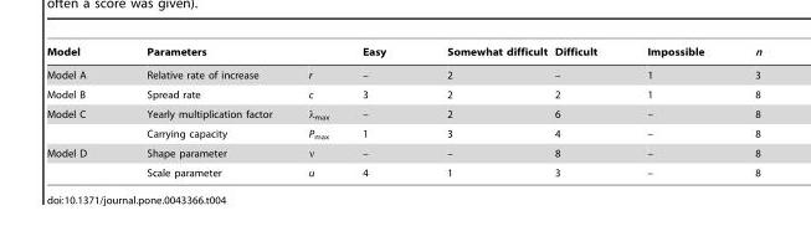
<table><thead><tr><td>Model</td><td>Parameters</td><td></td><td>Easy</td><td>Somewhat difficult</td><td>Difficult</td><td>Impossible</td><td>n</td></tr></thead><tbody><tr><td>Model A</td><td>Relative rate of increase</td><td>r</td><td>–</td><td>2</td><td>–</td><td>1</td><td>3</td></tr><tr><td>Model B</td><td>Spread rate</td><td>c</td><td>3</td><td>2</td><td>2</td><td>1</td><td>8</td></tr><tr><td rowspan="2">Model C</td><td>Yearly multiplication factor</td><td>λ<sub>max</sub></td><td>–</td><td>2</td><td>6</td><td>–</td><td>8</td></tr><tr><td>Carrying capacity</td><td>P<sub>max</sub></td><td>1</td><td>3</td><td>4</td><td>–</td><td>8</td></tr><tr><td rowspan="2">Model D</td><td>Shape parameter</td><td>ν</td><td>–</td><td>–</td><td>8</td><td>–</td><td>8</td></tr><tr><td>Scale parameter</td><td>u</td><td>4</td><td>1</td><td>3</td><td>–</td><td>8</td></tr></tbody></table>